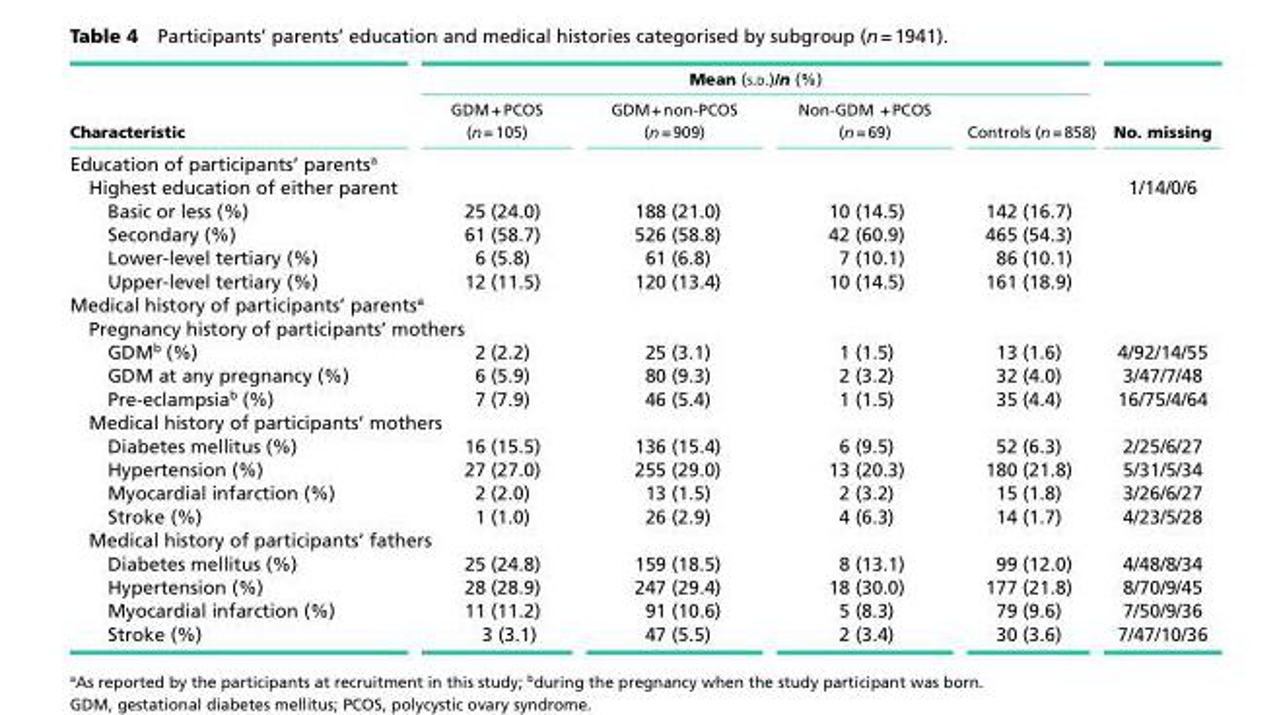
<table><thead><tr><td rowspan="2">Characteristic</td><td colspan="4">Mean (s.d.)/n (%)</td><td rowspan="2">No. missing</td></tr><tr><td>GDM + PCOS (n = 105)</td><td>GDM + non-PCOS (n = 909)</td><td>Non-GDM + PCOS (n = 69)</td><td>Controls (n = 858)</td></tr></thead><tbody><tr><td colspan="6">Education of participants’ parents<sup>a</sup></td></tr><tr><td colspan="2">Highest education of either parent</td><td></td><td></td><td></td><td>1/14/0/6</td></tr><tr><td>Basic or less (%)</td><td>25 (24.0)</td><td>188 (21.0)</td><td>10 (14.5)</td><td>142 (16.7)</td><td></td></tr><tr><td>Secondary (%)</td><td>61 (58.7)</td><td>526 (58.8)</td><td>42 (60.9)</td><td>465 (54.3)</td><td></td></tr><tr><td>Lower-level tertiary (%)</td><td>6 (5.8)</td><td>61 (6.8)</td><td>7 (10.1)</td><td>86 (10.1)</td><td></td></tr><tr><td>Upper-level tertiary (%)</td><td>12 (11.5)</td><td>120 (13.4)</td><td>10 (14.5)</td><td>161 (18.9)</td><td></td></tr><tr><td colspan="6">Medical history of participants’ parents<sup>a</sup></td></tr><tr><td colspan="6">Pregnancy history of participants’ mothers</td></tr><tr><td>GDM<sup>b</sup> (%)</td><td>2 (2.2)</td><td>25 (3.1)</td><td>1 (1.5)</td><td>13 (1.6)</td><td>4/92/14/55</td></tr><tr><td>GDM at any pregnancy (%)</td><td>6 (5.9)</td><td>80 (9.3)</td><td>2 (3.2)</td><td>32 (4.0)</td><td>3/47/7/48</td></tr><tr><td>Pre-eclampsia<sup>b</sup> (%)</td><td>7 (7.9)</td><td>46 (5.4)</td><td>1 (1.5)</td><td>35 (4.4)</td><td>16/75/4/64</td></tr><tr><td colspan="6">Medical history of participants’ mothers</td></tr><tr><td>Diabetes mellitus (%)</td><td>16 (15.5)</td><td>136 (15.4)</td><td>6 (9.5)</td><td>52 (6.3)</td><td>2/25/6/27</td></tr><tr><td>Hypertension (%)</td><td>27 (27.0)</td><td>255 (29.0)</td><td>13 (20.3)</td><td>180 (21.8)</td><td>5/31/5/34</td></tr><tr><td>Myocardial infarction (%)</td><td>2 (2.0)</td><td>13 (1.5)</td><td>2 (3.2)</td><td>15 (1.8)</td><td>3/26/6/27</td></tr><tr><td>Stroke (%)</td><td>1 (1.0)</td><td>26 (2.9)</td><td>4 (6.3)</td><td>14 (1.7)</td><td>4/23/5/28</td></tr><tr><td colspan="6">Medical history of participants’ fathers</td></tr><tr><td>Diabetes mellitus (%)</td><td>25 (24.8)</td><td>159 (18.5)</td><td>8 (13.1)</td><td>99 (12.0)</td><td>4/48/8/34</td></tr><tr><td>Hypertension (%)</td><td>28 (28.9)</td><td>247 (29.4)</td><td>18 (30.0)</td><td>177 (21.8)</td><td>8/70/9/45</td></tr><tr><td>Myocardial infarction (%)</td><td>11 (11.2)</td><td>91 (10.6)</td><td>5 (8.3)</td><td>79 (9.6)</td><td>7/50/9/36</td></tr><tr><td>Stroke (%)</td><td>3 (3.1)</td><td>47 (5.5)</td><td>2 (3.4)</td><td>30 (3.6)</td><td>7/47/10/36</td></tr></tbody></table>